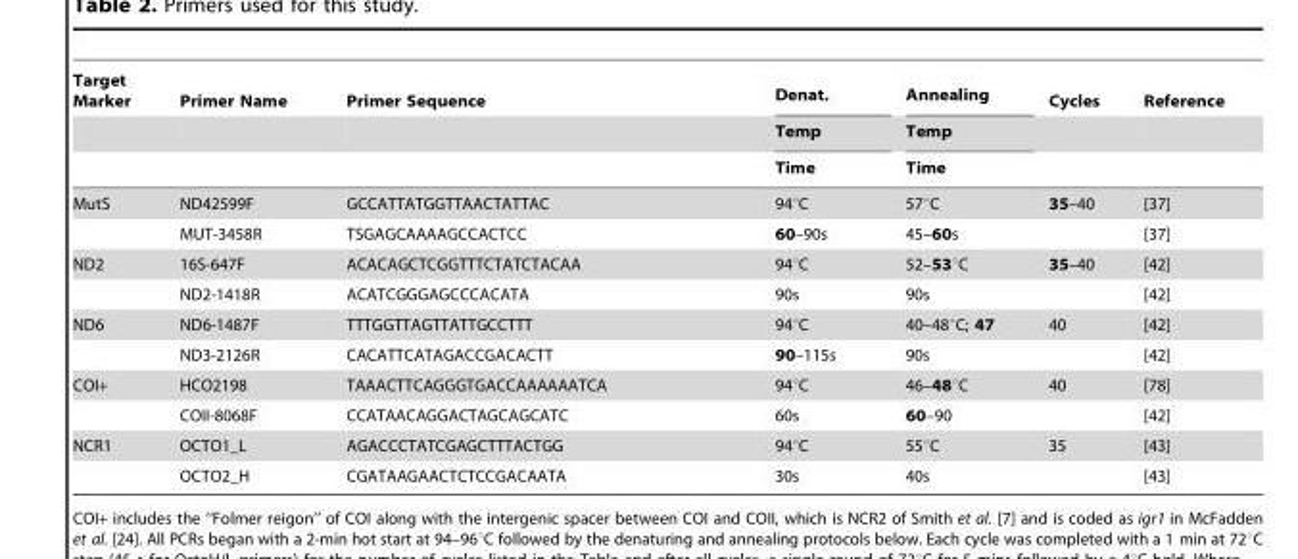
<table><thead><tr><td rowspan="3">Target Marker</td><td rowspan="3">Primer Name</td><td rowspan="3">Primer Sequence</td><td rowspan="3">Denat. Temp Time</td><td rowspan="3">Annealing Temp Time</td><td rowspan="3">Cycles</td><td rowspan="3">Reference</td></tr><tr></tr><tr></tr></thead><tbody><tr><td rowspan="2">MutS</td><td>ND42599F</td><td>GCCATTATGGTTAACTATTAC</td><td>94°C</td><td>57°C</td><td>35–40</td><td>[37]</td></tr><tr><td>MUT-3458R</td><td>TSGAGCAAAAGCCACTCC</td><td>60–90s</td><td>45–60s</td><td></td><td>[37]</td></tr><tr><td rowspan="2">ND2</td><td>16S-647F</td><td>ACACAGCTCGGTTTCTATCTACAA</td><td>94°C</td><td>52–53°C</td><td>35–40</td><td>[42]</td></tr><tr><td>ND2-1418R</td><td>ACATCGGGAGCCCACATA</td><td>90s</td><td>90s</td><td></td><td>[42]</td></tr><tr><td rowspan="2">ND6</td><td>ND6-1487F</td><td>TTTGGTTAGTTATTGCCTTT</td><td>94°C</td><td>40–48°C; 47</td><td>40</td><td>[42]</td></tr><tr><td>ND3-2126R</td><td>CACATTCATAGACCGACACTT</td><td>90–115s</td><td>90s</td><td></td><td>[42]</td></tr><tr><td rowspan="2">COI+</td><td>HCO2198</td><td>TAAACTTCAGGGTGACCAAAAAATCA</td><td>94°C</td><td>46–48°C</td><td>40</td><td>[78]</td></tr><tr><td>COII-8068F</td><td>CCATAACAGGACTAGCAGCATC</td><td>60s</td><td>60–90</td><td></td><td>[42]</td></tr><tr><td rowspan="2">NCR1</td><td>OCTO1_L</td><td>AGACCCTATCGAGCTTTACTGG</td><td>94°C</td><td>55°C</td><td>35</td><td>[43]</td></tr><tr><td>OCTO2_H</td><td>CGATAAGAACTCTCCGACAATA</td><td>30s</td><td>40s</td><td></td><td>[43]</td></tr></tbody></table>